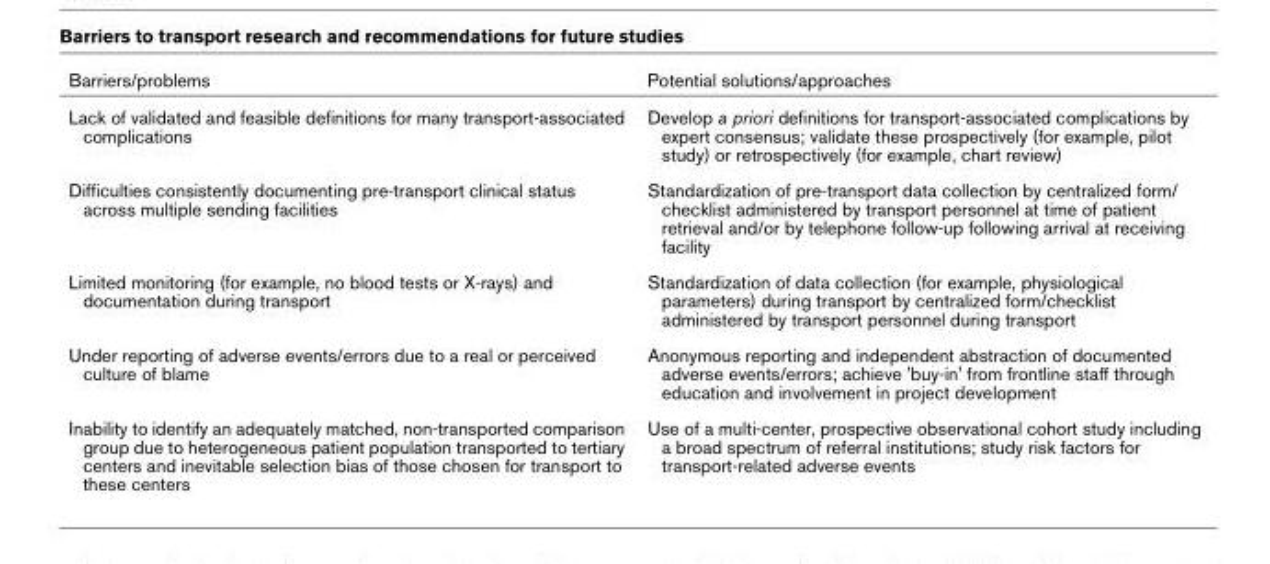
<table><thead><tr><td>Barriers/problems</td><td>Potential solutions/approaches</td></tr></thead><tbody><tr><td>Lack of validated and feasible definitions for many transport-associated complications</td><td>Develop a priori definitions for transport-associated complications by expert consensus; validate these prospectively (for example, pilot study) or retrospectively (for example, chart review)</td></tr><tr><td>Difficulties consistently documenting pre-transport clinical status across multiple sending facilities</td><td>Standardization of pre-transport data collection by centralized form/ checklist administered by transport personnel at time of patient retrieval and/or by telephone follow-up following arrival at receiving facility</td></tr><tr><td>Limited monitoring (for example, no blood tests or X-rays) and documentation during transport</td><td>Standardization of data collection (for example, physiological parameters) during transport by centralized form/checklist administered by transport personnel during transport</td></tr><tr><td>Under reporting of adverse events/errors due to a real or perceived culture of blame</td><td>Anonymous reporting and independent abstraction of documented adverse events/errors; achieve &#x27;buy-in&#x27; from frontline staff through education and involvement in project development</td></tr><tr><td>Inability to identify an adequately matched, non-transported comparison group due to heterogeneous patient population transported to tertiary centers and inevitable selection bias of those chosen for transport to these centers</td><td>Use of a multi-center, prospective observational cohort study including a broad spectrum of referral institutions; study risk factors for transport-related adverse events</td></tr></tbody></table>